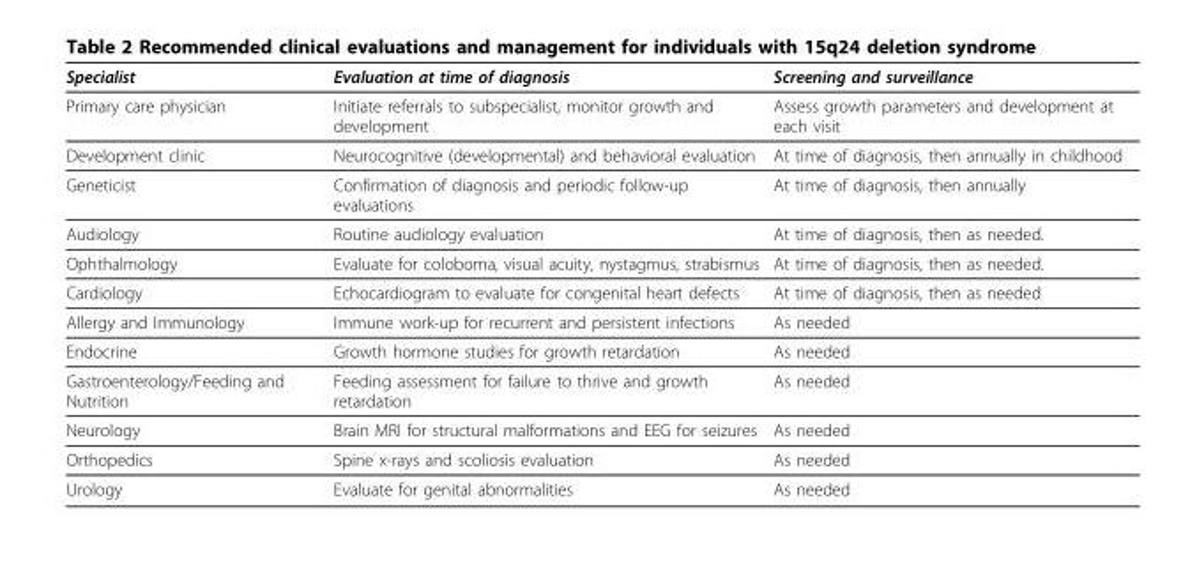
<table><thead><tr><td>Specialist</td><td>Evaluation at time of diagnosis</td><td>Screening and surveillance</td></tr></thead><tbody><tr><td>Primary care physician</td><td>Initiate referrals to subspecialist, monitor growth and development</td><td>Assess growth parameters and development at each visit</td></tr><tr><td>Development clinic</td><td>Neurocognitive (developmental) and behavioral evaluation</td><td>At time of diagnosis, then annually in childhood</td></tr><tr><td>Geneticist</td><td>Confirmation of diagnosis and periodic follow-up evaluations</td><td>At time of diagnosis, then annually</td></tr><tr><td>Audiology</td><td>Routine audiology evaluation</td><td>At time of diagnosis, then as needed.</td></tr><tr><td>Ophthalmology</td><td>Evaluate for coloboma, visual acuity, nystagmus, strabismus</td><td>At time of diagnosis, then as needed.</td></tr><tr><td>Cardiology</td><td>Echocardiogram to evaluate for congenital heart defects</td><td>At time of diagnosis, then as needed</td></tr><tr><td>Allergy and Immunology</td><td>Immune work-up for recurrent and persistent infections</td><td>As needed</td></tr><tr><td>Endocrine</td><td>Growth hormone studies for growth retardation</td><td>As needed</td></tr><tr><td>Gastroenterology/Feeding and Nutrition</td><td>Feeding assessment for failure to thrive and growth retardation</td><td>As needed</td></tr><tr><td>Neurology</td><td>Brain MRI for structural malformations and EEG for seizures</td><td>As needed</td></tr><tr><td>Orthopedics</td><td>Spine x-rays and scoliosis evaluation</td><td>As needed</td></tr><tr><td>Urology</td><td>Evaluate for genital abnormalities</td><td>As needed</td></tr></tbody></table>